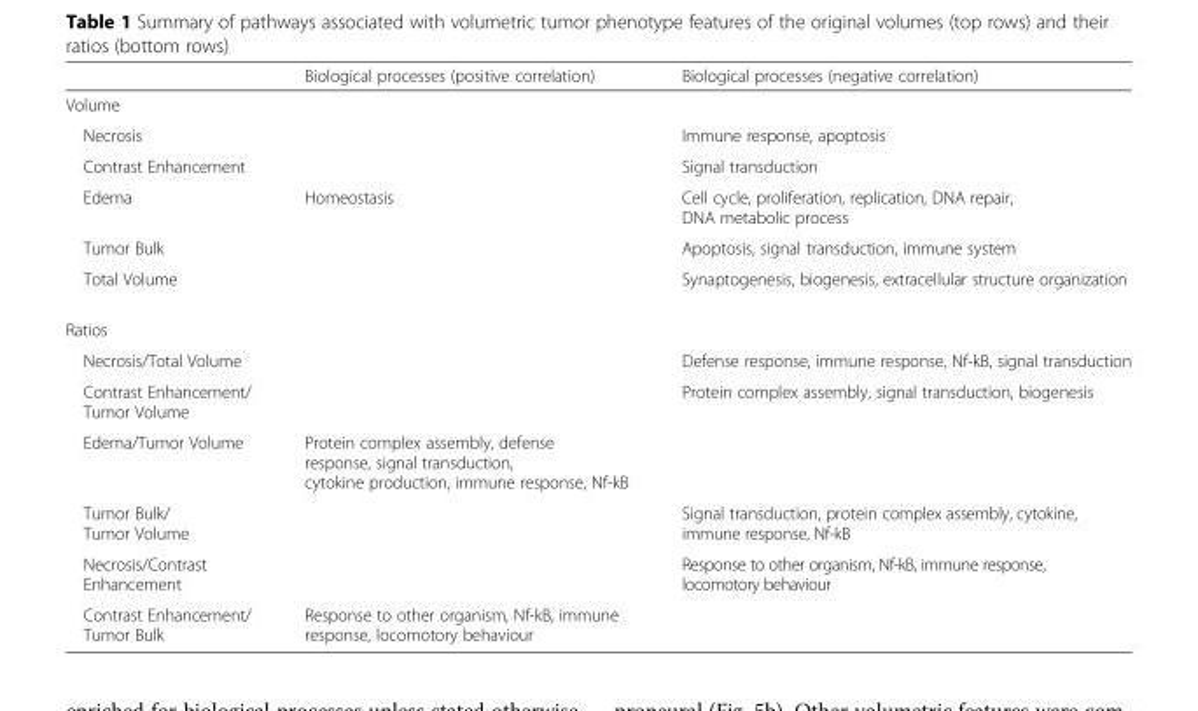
<table><thead><tr><td></td><td>Biological processes (positive correlation)</td><td>Biological processes (negative correlation)</td></tr></thead><tbody><tr><td colspan="3">Volume</td></tr><tr><td>Necrosis</td><td></td><td>Immune response, apoptosis</td></tr><tr><td>Contrast Enhancement</td><td></td><td>Signal transduction</td></tr><tr><td>Edema</td><td>Homeostasis</td><td>Cell cycle, proliferation, replication, DNA repair, DNA metabolic process</td></tr><tr><td>Tumor Bulk</td><td></td><td>Apoptosis, signal transduction, immune system</td></tr><tr><td>Total Volume</td><td></td><td>Synaptogenesis, biogenesis, extracellular structure organization</td></tr><tr><td colspan="3">Ratios</td></tr><tr><td>Necrosis/Total Volume</td><td></td><td>Defense response, immune response, Nf-kB, signal transduction</td></tr><tr><td>Contrast Enhancement/ Tumor Volume</td><td></td><td>Protein complex assembly, signal transduction, biogenesis</td></tr><tr><td>Edema/Tumor Volume</td><td>Protein complex assembly, defense response, signal transduction, cytokine production, immune response, Nf-kB</td><td></td></tr><tr><td>Tumor Bulk/ Tumor Volume</td><td></td><td>Signal transduction, protein complex assembly, cytokine, immune response, Nf-kB</td></tr><tr><td>Necrosis/Contrast Enhancement</td><td></td><td>Response to other organism, Nf-kB, immune response, locomotory behaviour</td></tr><tr><td>Contrast Enhancement/ Tumor Bulk</td><td>Response to other organism, Nf-kB, immune response, locomotory behaviour</td><td></td></tr></tbody></table>